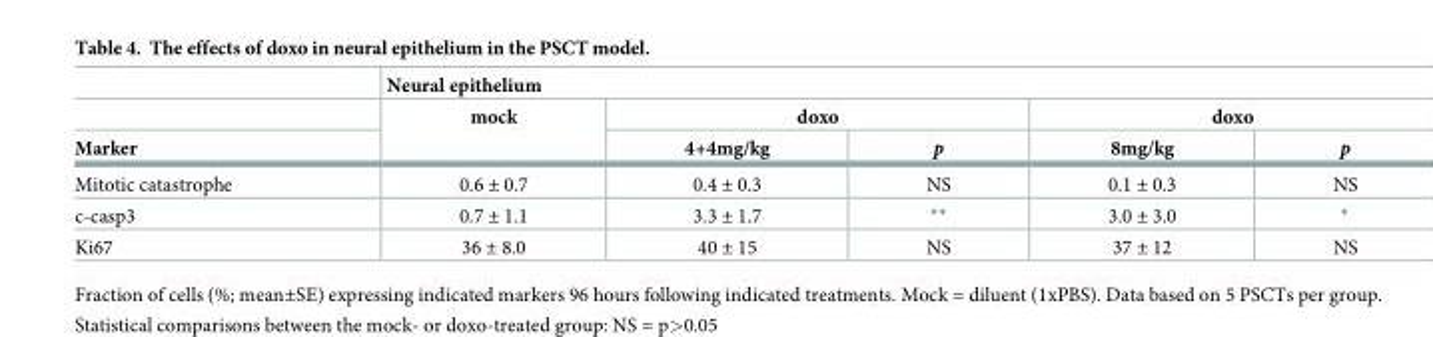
<table><thead><tr><td rowspan="3">Marker</td><td colspan="5">Neural epithelium</td></tr><tr><td rowspan="2">mock</td><td colspan="2">doxo</td><td colspan="2">doxo</td></tr><tr><td>4+4mg/kg</td><td>p</td><td>8mg/kg</td><td>p</td></tr></thead><tbody><tr><td>Mitotic catastrophe</td><td>0.6 ± 0.7</td><td>0.4 ± 0.3</td><td>NS</td><td>0.1 ± 0.3</td><td>NS</td></tr><tr><td>c-casp3</td><td>0.7 ± 1.1</td><td>3.3 ± 1.7</td><td>**</td><td>3.0 ± 3.0</td><td>*</td></tr><tr><td>Ki67</td><td>36 ± 8.0</td><td>40 ± 15</td><td>NS</td><td>37 ± 12</td><td>NS</td></tr></tbody></table>